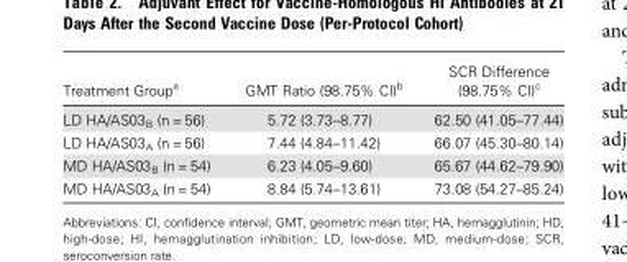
<table><thead><tr><td>Treatment Group<sup>a</sup></td><td>GMT Ratio (98.75% CI)<sup>b</sup></td><td>SCR Difference (98.75% CI)<sup>c</sup></td></tr></thead><tbody><tr><td>LD HA/AS03<sub>B</sub> (n = 56)</td><td>5.72 (3.73–8.77)</td><td>62.50 (41.05–77.44)</td></tr><tr><td>LD HA/AS03<sub>A</sub> (n = 56)</td><td>7.44 (4.84–11.42)</td><td>66.07 (45.30–80.14)</td></tr><tr><td>MD HA/AS03<sub>B</sub> (n = 54)</td><td>6.23 (4.05–9.60)</td><td>65.67 (44.62–79.90)</td></tr><tr><td>MD HA/AS03<sub>A</sub> (n = 54)</td><td>8.84 (5.74–13.61)</td><td>73.08 (54.27–85.24)</td></tr></tbody></table>